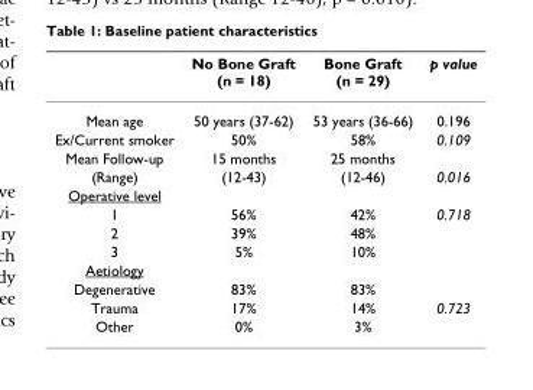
<table><thead><tr><td></td><td>No Bone Graft (n = 18)</td><td>Bone Graft (n = 29)</td><td>p value</td></tr></thead><tbody><tr><td>Mean age</td><td>50 years (37-62)</td><td>53 years (36-66)</td><td>0.196</td></tr><tr><td>Ex/Current smoker</td><td>50%</td><td>58%</td><td>0.109</td></tr><tr><td>Mean Follow-up</td><td>15 months</td><td>25 months</td><td></td></tr><tr><td>(Range)</td><td>(12-43)</td><td>(12-46)</td><td>0.016</td></tr><tr><td colspan="4">Operative level</td></tr><tr><td>1</td><td>56%</td><td>42%</td><td>0.718</td></tr><tr><td>2</td><td>39%</td><td>48%</td><td></td></tr><tr><td>3</td><td>5%</td><td>10%</td><td></td></tr><tr><td colspan="4">Aetiology</td></tr><tr><td>Degenerative</td><td>83%</td><td>83%</td><td></td></tr><tr><td>Trauma</td><td>17%</td><td>14%</td><td>0.723</td></tr><tr><td>Other</td><td>0%</td><td>3%</td><td></td></tr></tbody></table>